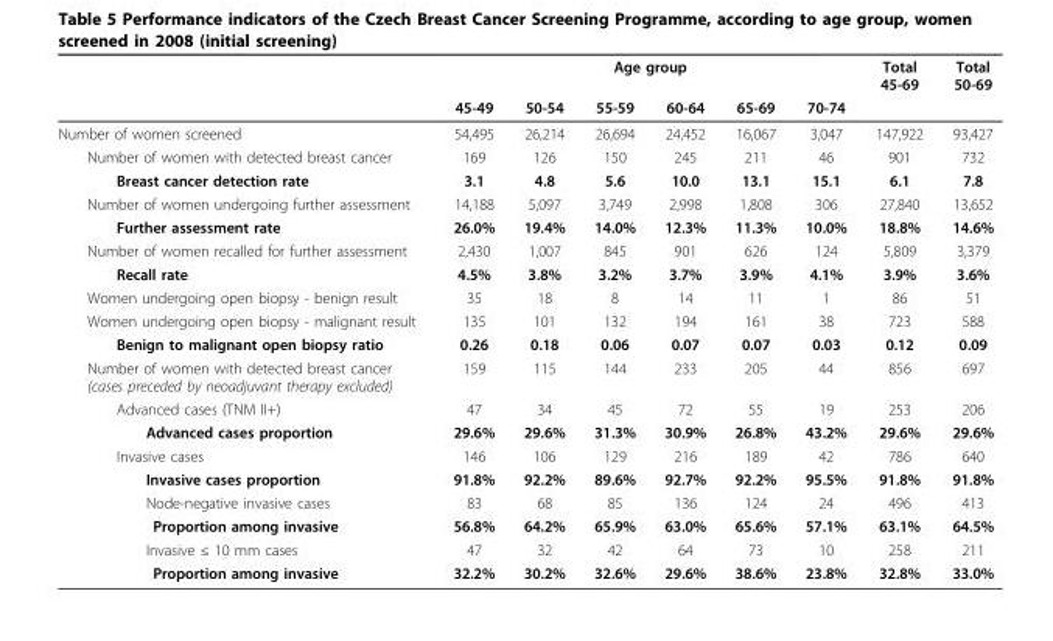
<table><thead><tr><td rowspan="2"></td><td colspan="6">Age group</td><td rowspan="2">Total 45-69</td><td rowspan="2">Total 50-69</td></tr><tr><td>45-49</td><td>50-54</td><td>55-59</td><td>60-64</td><td>65-69</td><td>70-74</td></tr></thead><tbody><tr><td>Number of women screened</td><td>54,495</td><td>26,214</td><td>26,694</td><td>24,452</td><td>16,067</td><td>3,047</td><td>147,922</td><td>93,427</td></tr><tr><td>Number of women with detected breast cancer</td><td>169</td><td>126</td><td>150</td><td>245</td><td>211</td><td>46</td><td>901</td><td>732</td></tr><tr><td>Breast cancer detection rate</td><td>3.1</td><td>4.8</td><td>5.6</td><td>10.0</td><td>13.1</td><td>15.1</td><td>6.1</td><td>7.8</td></tr><tr><td>Number of women undergoing further assessment</td><td>14,188</td><td>5,097</td><td>3,749</td><td>2,998</td><td>1,808</td><td>306</td><td>27,840</td><td>13,652</td></tr><tr><td>Further assessment rate</td><td>26.0%</td><td>19.4%</td><td>14.0%</td><td>12.3%</td><td>11.3%</td><td>10.0%</td><td>18.8%</td><td>14.6%</td></tr><tr><td>Number of women recalled for further assessment</td><td>2,430</td><td>1,007</td><td>845</td><td>901</td><td>626</td><td>124</td><td>5,809</td><td>3,379</td></tr><tr><td>Recall rate</td><td>4.5%</td><td>3.8%</td><td>3.2%</td><td>3.7%</td><td>3.9%</td><td>4.1%</td><td>3.9%</td><td>3.6%</td></tr><tr><td>Women undergoing open biopsy - benign result</td><td>35</td><td>18</td><td>8</td><td>14</td><td>11</td><td>1</td><td>86</td><td>51</td></tr><tr><td>Women undergoing open biopsy - malignant result</td><td>135</td><td>101</td><td>132</td><td>194</td><td>161</td><td>38</td><td>723</td><td>588</td></tr><tr><td>Benign to malignant open biopsy ratio</td><td>0.26</td><td>0.18</td><td>0.06</td><td>0.07</td><td>0.07</td><td>0.03</td><td>0.12</td><td>0.09</td></tr><tr><td>Number of women with detected breast cancer (cases preceded by neoadjuvant therapy excluded)</td><td>159</td><td>115</td><td>144</td><td>233</td><td>205</td><td>44</td><td>856</td><td>697</td></tr><tr><td>Advanced cases (TNM II+)</td><td>47</td><td>34</td><td>45</td><td>72</td><td>55</td><td>19</td><td>253</td><td>206</td></tr><tr><td>Advanced cases proportion</td><td>29.6%</td><td>29.6%</td><td>31.3%</td><td>30.9%</td><td>26.8%</td><td>43.2%</td><td>29.6%</td><td>29.6%</td></tr><tr><td>Invasive cases</td><td>146</td><td>106</td><td>129</td><td>216</td><td>189</td><td>42</td><td>786</td><td>640</td></tr><tr><td>Invasive cases proportion</td><td>91.8%</td><td>92.2%</td><td>89.6%</td><td>92.7%</td><td>92.2%</td><td>95.5%</td><td>91.8%</td><td>91.8%</td></tr><tr><td>Node-negative invasive cases</td><td>83</td><td>68</td><td>85</td><td>136</td><td>124</td><td>24</td><td>496</td><td>413</td></tr><tr><td>Proportion among invasive</td><td>56.8%</td><td>64.2%</td><td>65.9%</td><td>63.0%</td><td>65.6%</td><td>57.1%</td><td>63.1%</td><td>64.5%</td></tr><tr><td>Invasive ≤ 10 mm cases</td><td>47</td><td>32</td><td>42</td><td>64</td><td>73</td><td>10</td><td>258</td><td>211</td></tr><tr><td>Proportion among invasive</td><td>32.2%</td><td>30.2%</td><td>32.6%</td><td>29.6%</td><td>38.6%</td><td>23.8%</td><td>32.8%</td><td>33.0%</td></tr></tbody></table>